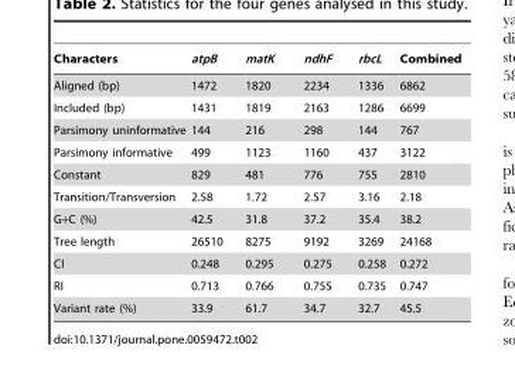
<table><thead><tr><td>Characters</td><td>atpB</td><td>matK</td><td>ndhF</td><td>rbcL</td><td>Combined</td></tr></thead><tbody><tr><td>Aligned (bp)</td><td>1472</td><td>1820</td><td>2234</td><td>1336</td><td>6862</td></tr><tr><td>Included (bp)</td><td>1431</td><td>1819</td><td>2163</td><td>1286</td><td>6699</td></tr><tr><td>Parsimony uninformative</td><td>144</td><td>216</td><td>298</td><td>144</td><td>767</td></tr><tr><td>Parsimony informative</td><td>499</td><td>1123</td><td>1160</td><td>437</td><td>3122</td></tr><tr><td>Constant</td><td>829</td><td>481</td><td>776</td><td>755</td><td>2810</td></tr><tr><td>Transition/Transversion</td><td>2.58</td><td>1.72</td><td>2.57</td><td>3.16</td><td>2.18</td></tr><tr><td>G+C (%)</td><td>42.5</td><td>31.8</td><td>37.2</td><td>35.4</td><td>38.2</td></tr><tr><td>Tree length</td><td>26510</td><td>8275</td><td>9192</td><td>3269</td><td>24168</td></tr><tr><td>CI</td><td>0.248</td><td>0.295</td><td>0.275</td><td>0.258</td><td>0.272</td></tr><tr><td>RI</td><td>0.713</td><td>0.766</td><td>0.755</td><td>0.735</td><td>0.747</td></tr><tr><td>Variant rate (%)</td><td>33.9</td><td>61.7</td><td>34.7</td><td>32.7</td><td>45.5</td></tr></tbody></table>